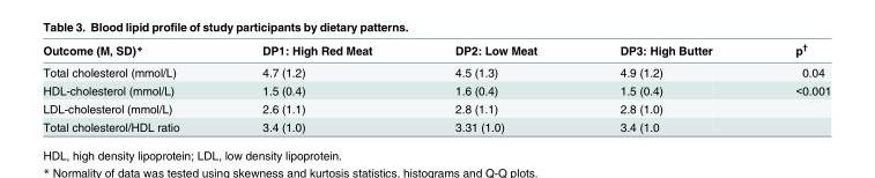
<table><thead><tr><td>Outcome (M, SD)*</td><td>DP1: High Red Meat</td><td>DP2: Low Meat</td><td>DP3: High Butter</td><td>p<sup>†</sup></td></tr></thead><tbody><tr><td>Total cholesterol (mmol/L)</td><td>4.7 (1.2)</td><td>4.5 (1.3)</td><td>4.9 (1.2)</td><td>0.04</td></tr><tr><td>HDL-cholesterol (mmol/L)</td><td>1.5 (0.4)</td><td>1.6 (0.4)</td><td>1.5 (0.4)</td><td>&lt;0.001</td></tr><tr><td>LDL-cholesterol (mmol/L)</td><td>2.6 (1.1)</td><td>2.8 (1.1)</td><td>2.8 (1.0)</td><td></td></tr><tr><td>Total cholesterol/HDL ratio</td><td>3.4 (1.0)</td><td>3.31 (1.0)</td><td>3.4 (1.0</td><td></td></tr></tbody></table>